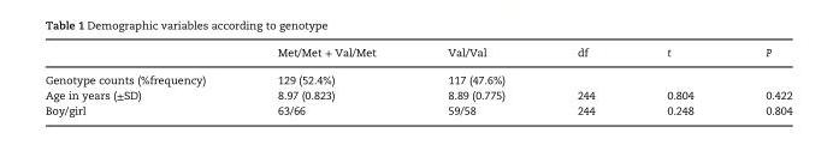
<table><thead><tr><td></td><td>Met/Met + Val/Met</td><td>Val/Val</td><td>df</td><td>t</td><td>P</td></tr></thead><tbody><tr><td>Genotype counts (%frequency)</td><td>129 (52.4%)</td><td>117 (47.6%)</td><td></td><td></td><td></td></tr><tr><td>Age in years (±SD)</td><td>8.97 (0.823)</td><td>8.89 (0.775)</td><td>244</td><td>0.804</td><td>0.422</td></tr><tr><td>Boy/girl</td><td>63/66</td><td>59/58</td><td>244</td><td>0.248</td><td>0.804</td></tr></tbody></table>